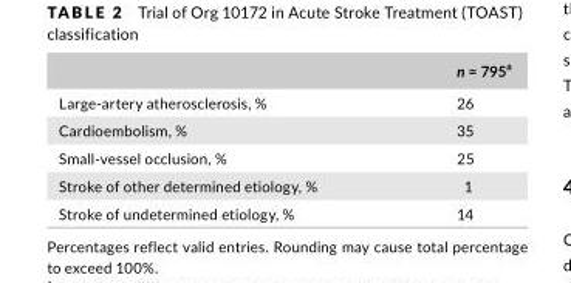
<table><thead><tr><td></td><td>n = 795<sup>a</sup></td></tr></thead><tbody><tr><td>Large- artery atherosclerosis, %</td><td>26</td></tr><tr><td>Cardioembolism, %</td><td>35</td></tr><tr><td>Small- vessel occlusion, %</td><td>25</td></tr><tr><td>Stroke of other determined etiology, %</td><td>1</td></tr><tr><td>Stroke of undetermined etiology, %</td><td>14</td></tr></tbody></table>